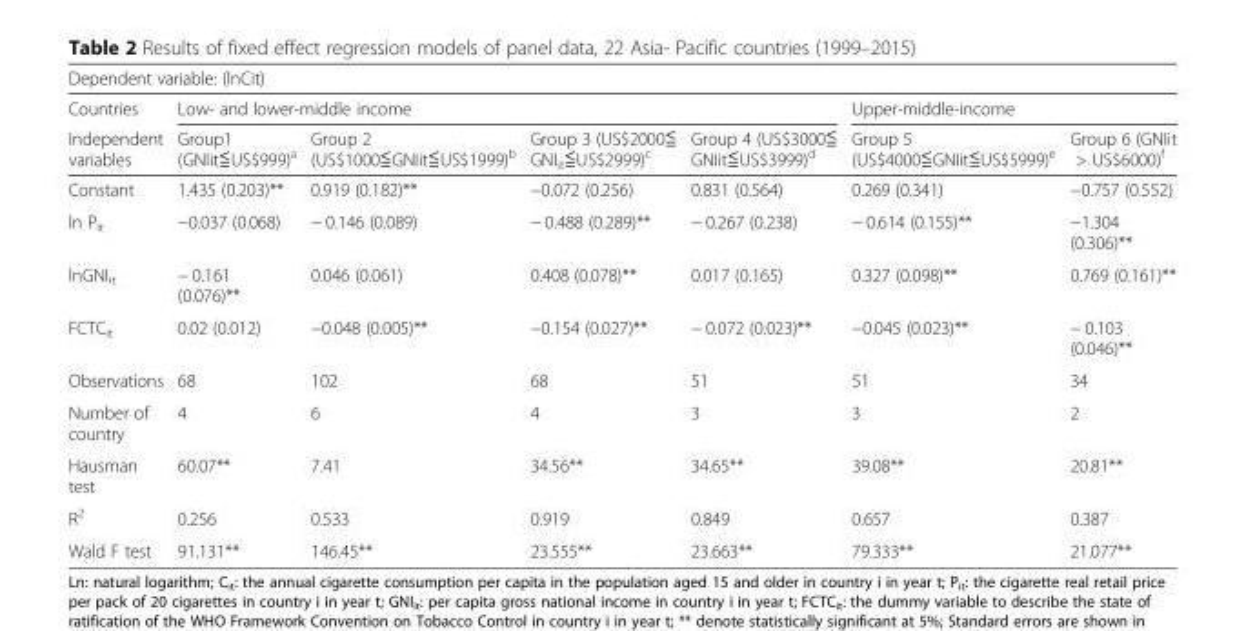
<table><thead><tr><td colspan="7">Dependent variable: (lnCit)</td></tr><tr><td rowspan="2">Countries Independent variables</td><td colspan="4">Low- and lower-middle income</td><td colspan="2">Upper-middle-income</td></tr><tr><td>Group1 (GNIit≦US$999)<sup>a</sup></td><td>Group 2 (US$1000≦GNIit≦US$1999)<sup>b</sup></td><td>Group 3 (US$2000≦ GNI<sub>it</sub>≦US$2999)<sup>c</sup></td><td>Group 4 (US$3000≦ GNIit≦US$3999)<sup>d</sup></td><td>Group 5 (US$4000≦GNIit≦US$5999)<sup>e</sup></td><td>Group 6 (GNIit &gt; US$6000)<sup>f</sup></td></tr></thead><tbody><tr><td>Constant</td><td>1.435 (0.203)**</td><td>0.919 (0.182)**</td><td>−0.072 (0.256)</td><td>0.831 (0.564)</td><td>0.269 (0.341)</td><td>−0.757 (0.552)</td></tr><tr><td>ln P<sub>it</sub></td><td>−0.037 (0.068)</td><td>− 0.146 (0.089)</td><td>− 0.488 (0.289)**</td><td>− 0.267 (0.238)</td><td>− 0.614 (0.155)**</td><td>−1.304 (0.306)**</td></tr><tr><td>lnGNI<sub>it</sub></td><td>− 0.161 (0.076)**</td><td>0.046 (0.061)</td><td>0.408 (0.078)**</td><td>0.017 (0.165)</td><td>0.327 (0.098)**</td><td>0.769 (0.161)**</td></tr><tr><td>FCTC<sub>it</sub></td><td>0.02 (0.012)</td><td>−0.048 (0.005)**</td><td>−0.154 (0.027)**</td><td>− 0.072 (0.023)**</td><td>−0.045 (0.023)**</td><td>− 0.103 (0.046)**</td></tr><tr><td>Observations</td><td>68</td><td>102</td><td>68</td><td>51</td><td>51</td><td>34</td></tr><tr><td>Number of country</td><td>4</td><td>6</td><td>4</td><td>3</td><td>3</td><td>2</td></tr><tr><td>Hausman test</td><td>60.07**</td><td>7.41</td><td>34.56**</td><td>34.65**</td><td>39.08**</td><td>20.81**</td></tr><tr><td>R<sup>2</sup></td><td>0.256</td><td>0.533</td><td>0.919</td><td>0.849</td><td>0.657</td><td>0.387</td></tr><tr><td>Wald F test</td><td>91.131**</td><td>146.45**</td><td>23.555**</td><td>23.663**</td><td>79.333**</td><td>21.077**</td></tr></tbody></table>